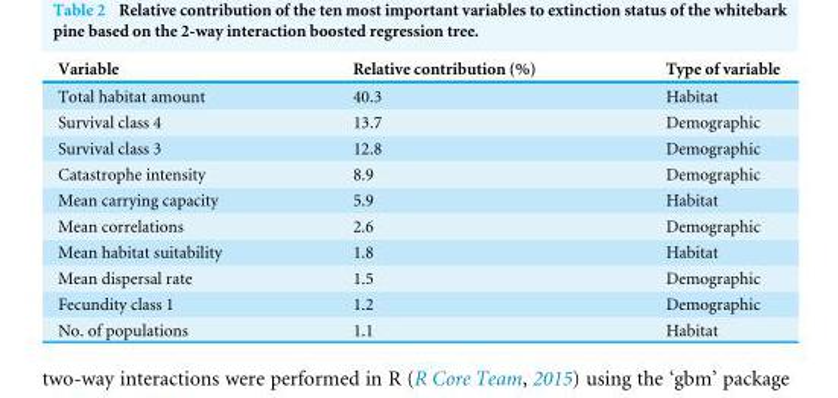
<table><thead><tr><td>Variable</td><td>Relative contribution (%)</td><td>Type of variable</td></tr></thead><tbody><tr><td>Total habitat amount</td><td>40.3</td><td>Habitat</td></tr><tr><td>Survival class 4</td><td>13.7</td><td>Demographic</td></tr><tr><td>Survival class 3</td><td>12.8</td><td>Demographic</td></tr><tr><td>Catastrophe intensity</td><td>8.9</td><td>Demographic</td></tr><tr><td>Mean carrying capacity</td><td>5.9</td><td>Habitat</td></tr><tr><td>Mean correlations</td><td>2.6</td><td>Demographic</td></tr><tr><td>Mean habitat suitability</td><td>1.8</td><td>Habitat</td></tr><tr><td>Mean dispersal rate</td><td>1.5</td><td>Demographic</td></tr><tr><td>Fecundity class 1</td><td>1.2</td><td>Demographic</td></tr><tr><td>No. of populations</td><td>1.1</td><td>Habitat</td></tr></tbody></table>